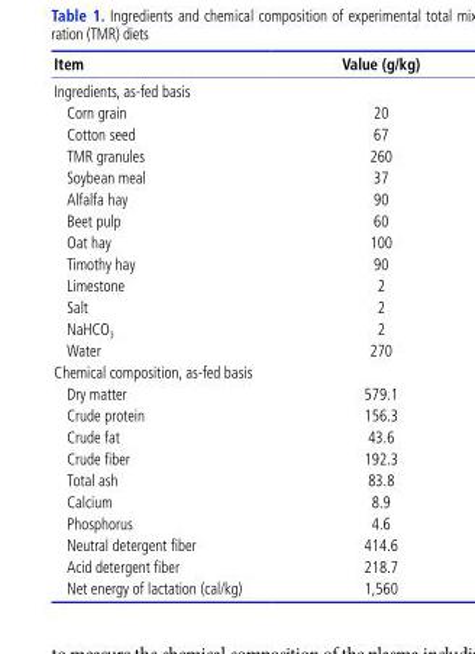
<table><thead><tr><td>Item</td><td>Value (g/kg)</td></tr></thead><tbody><tr><td colspan="2">Ingredients, as-fed basis</td></tr><tr><td>Corn grain</td><td>20</td></tr><tr><td>Cotton seed</td><td>67</td></tr><tr><td>TMR granules</td><td>260</td></tr><tr><td>Soybean meal</td><td>37</td></tr><tr><td>Alfalfa hay</td><td>90</td></tr><tr><td>Beet pulp</td><td>60</td></tr><tr><td>Oat hay</td><td>100</td></tr><tr><td>Timothy hay</td><td>90</td></tr><tr><td>Limestone</td><td>2</td></tr><tr><td>Salt</td><td>2</td></tr><tr><td>NaHCO<sub>3</sub></td><td>2</td></tr><tr><td>Water</td><td>270</td></tr><tr><td colspan="2">Chemical composition, as-fed basis</td></tr><tr><td>Dry matter</td><td>579.1</td></tr><tr><td>Crude protein</td><td>156.3</td></tr><tr><td>Crude fat</td><td>43.6</td></tr><tr><td>Crude fiber</td><td>192.3</td></tr><tr><td>Total ash</td><td>83.8</td></tr><tr><td>Calcium</td><td>8.9</td></tr><tr><td>Phosphorus</td><td>4.6</td></tr><tr><td>Neutral detergent fiber</td><td>414.6</td></tr><tr><td>Acid detergent fiber</td><td>218.7</td></tr><tr><td>Net energy of lactation (cal/kg)</td><td>1,560</td></tr></tbody></table>